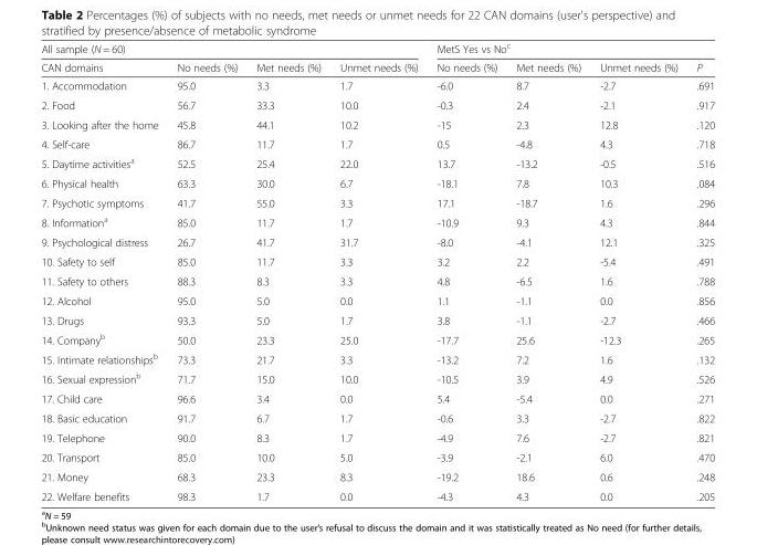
<table><thead><tr><td colspan="4">All sample (N = 60)</td><td colspan="4">MetS Yes vs No<sup>c</sup></td></tr><tr><td>CAN domains</td><td>No needs (%)</td><td>Met needs (%)</td><td>Unmet needs (%)</td><td>No needs (%)</td><td>Met needs (%)</td><td>Unmet needs (%)</td><td>P</td></tr></thead><tbody><tr><td>1. Accommodation</td><td>95.0</td><td>3.3</td><td>1.7</td><td>-6.0</td><td>8.7</td><td>-2.7</td><td>.691</td></tr><tr><td>2. Food</td><td>56.7</td><td>33.3</td><td>10.0</td><td>-0.3</td><td>2.4</td><td>-2.1</td><td>.917</td></tr><tr><td>3. Looking after the home</td><td>45.8</td><td>44.1</td><td>10.2</td><td>-15</td><td>2.3</td><td>12.8</td><td>.120</td></tr><tr><td>4. Self-care</td><td>86.7</td><td>11.7</td><td>1.7</td><td>0.5</td><td>-4.8</td><td>4.3</td><td>.718</td></tr><tr><td>5. Daytime activities<sup>a</sup></td><td>52.5</td><td>25.4</td><td>22.0</td><td>13.7</td><td>-13.2</td><td>-0.5</td><td>.516</td></tr><tr><td>6. Physical health</td><td>63.3</td><td>30.0</td><td>6.7</td><td>-18.1</td><td>7.8</td><td>10.3</td><td>.084</td></tr><tr><td>7. Psychotic symptoms</td><td>41.7</td><td>55.0</td><td>3.3</td><td>17.1</td><td>-18.7</td><td>1.6</td><td>.296</td></tr><tr><td>8. Information<sup>a</sup></td><td>85.0</td><td>11.7</td><td>1.7</td><td>-10.9</td><td>9.3</td><td>4.3</td><td>.844</td></tr><tr><td>9. Psychological distress</td><td>26.7</td><td>41.7</td><td>31.7</td><td>-8.0</td><td>-4.1</td><td>12.1</td><td>.325</td></tr><tr><td>10. Safety to self</td><td>85.0</td><td>11.7</td><td>3.3</td><td>3.2</td><td>2.2</td><td>-5.4</td><td>.491</td></tr><tr><td>11. Safety to others</td><td>88.3</td><td>8.3</td><td>3.3</td><td>4.8</td><td>-6.5</td><td>1.6</td><td>.788</td></tr><tr><td>12. Alcohol</td><td>95.0</td><td>5.0</td><td>0.0</td><td>1.1</td><td>-1.1</td><td>0.0</td><td>.856</td></tr><tr><td>13. Drugs</td><td>93.3</td><td>5.0</td><td>1.7</td><td>3.8</td><td>-1.1</td><td>-2.7</td><td>.466</td></tr><tr><td>14. Company<sup>b</sup></td><td>50.0</td><td>23.3</td><td>25.0</td><td>-17.7</td><td>25.6</td><td>-12.3</td><td>.265</td></tr><tr><td>15. Intimate relationships<sup>b</sup></td><td>73.3</td><td>21.7</td><td>3.3</td><td>-13.2</td><td>7.2</td><td>1.6</td><td>.132</td></tr><tr><td>16. Sexual expression<sup>b</sup></td><td>71.7</td><td>15.0</td><td>10.0</td><td>-10.5</td><td>3.9</td><td>4.9</td><td>.526</td></tr><tr><td>17. Child care</td><td>96.6</td><td>3.4</td><td>0.0</td><td>5.4</td><td>-5.4</td><td>0.0</td><td>.271</td></tr><tr><td>18. Basic education</td><td>91.7</td><td>6.7</td><td>1.7</td><td>-0.6</td><td>3.3</td><td>-2.7</td><td>.822</td></tr><tr><td>19. Telephone</td><td>90.0</td><td>8.3</td><td>1.7</td><td>-4.9</td><td>7.6</td><td>-2.7</td><td>.821</td></tr><tr><td>20. Transport</td><td>85.0</td><td>10.0</td><td>5.0</td><td>-3.9</td><td>-2.1</td><td>6.0</td><td>.470</td></tr><tr><td>21. Money</td><td>68.3</td><td>23.3</td><td>8.3</td><td>-19.2</td><td>18.6</td><td>0.6</td><td>.248</td></tr><tr><td>22. Welfare benefits</td><td>98.3</td><td>1.7</td><td>0.0</td><td>-4.3</td><td>4.3</td><td>0.0</td><td>.205</td></tr></tbody></table>